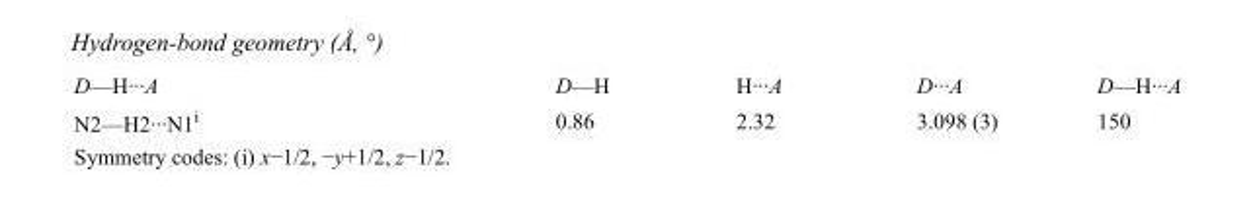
<table><tbody><tr><td>D—H···A</td><td>D—H</td><td>H···A</td><td>D···A</td><td>D—H···A</td></tr><tr><td>N2—H2···N1<sup>i</sup></td><td>0.86</td><td>2.32</td><td>3.098 (3)</td><td>150</td></tr></tbody></table>